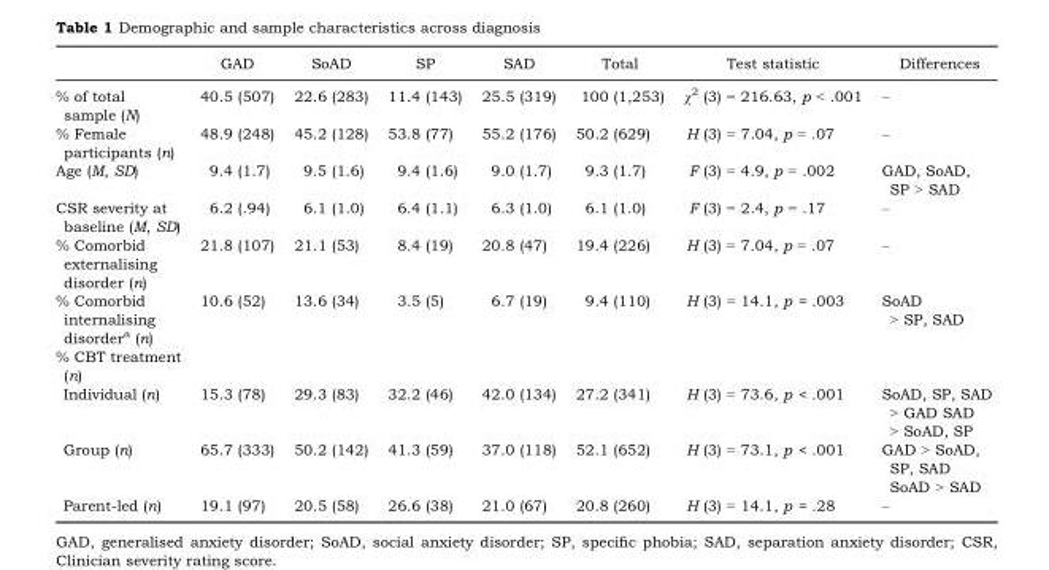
<table><thead><tr><td></td><td>GAD</td><td>SoAD</td><td>SP</td><td>SAD</td><td>Total</td><td>Test statistic</td><td>Differences</td></tr></thead><tbody><tr><td>% of total sample (N)</td><td>40.5 (507)</td><td>22.6 (283)</td><td>11.4 (143)</td><td>25.5 (319)</td><td>100 (1,253)</td><td>χ<sup>2</sup> (3) = 216.63, p &lt; .001</td><td>–</td></tr><tr><td>% Female participants (n)</td><td>48.9 (248)</td><td>45.2 (128)</td><td>53.8 (77)</td><td>55.2 (176)</td><td>50.2 (629)</td><td>H (3) = 7.04, p = .07</td><td>–</td></tr><tr><td>Age (M, SD)</td><td>9.4 (1.7)</td><td>9.5 (1.6)</td><td>9.4 (1.6)</td><td>9.0 (1.7)</td><td>9.3 (1.7)</td><td>F (3) = 4.9, p = .002</td><td>GAD, SoAD, SP &gt; SAD</td></tr><tr><td>CSR severity at baseline (M, SD)</td><td>6.2 (.94)</td><td>6.1 (1.0)</td><td>6.4 (1.1)</td><td>6.3 (1.0)</td><td>6.1 (1.0)</td><td>F (3) = 2.4, p = .17</td><td>–</td></tr><tr><td>% Comorbid externalising disorder (n)</td><td>21.8 (107)</td><td>21.1 (53)</td><td>8.4 (19)</td><td>20.8 (47)</td><td>19.4 (226)</td><td>H (3) = 7.04, p = .07</td><td>–</td></tr><tr><td>% Comorbid internalising disorder<sup>a</sup> (n)</td><td>10.6 (52)</td><td>13.6 (34)</td><td>3.5 (5)</td><td>6.7 (19)</td><td>9.4 (110)</td><td>H (3) = 14.1, p = .003</td><td>SoAD &gt; SP, SAD</td></tr><tr><td colspan="8">% CBT treatment (n)</td></tr><tr><td>Individual (n)</td><td>15.3 (78)</td><td>29.3 (83)</td><td>32.2 (46)</td><td>42.0 (134)</td><td>27.2 (341)</td><td>H (3) = 73.6, p &lt; .001</td><td>SoAD, SP, SAD &gt; GAD SAD &gt; SoAD, SP</td></tr><tr><td>Group (n)</td><td>65.7 (333)</td><td>50.2 (142)</td><td>41.3 (59)</td><td>37.0 (118)</td><td>52.1 (652)</td><td>H (3) = 73.1, p &lt; .001</td><td>GAD &gt; SoAD, SP, SAD SoAD &gt; SAD</td></tr><tr><td>Parent-led (n)</td><td>19.1 (97)</td><td>20.5 (58)</td><td>26.6 (38)</td><td>21.0 (67)</td><td>20.8 (260)</td><td>H (3) = 14.1, p = .28</td><td>–</td></tr></tbody></table>